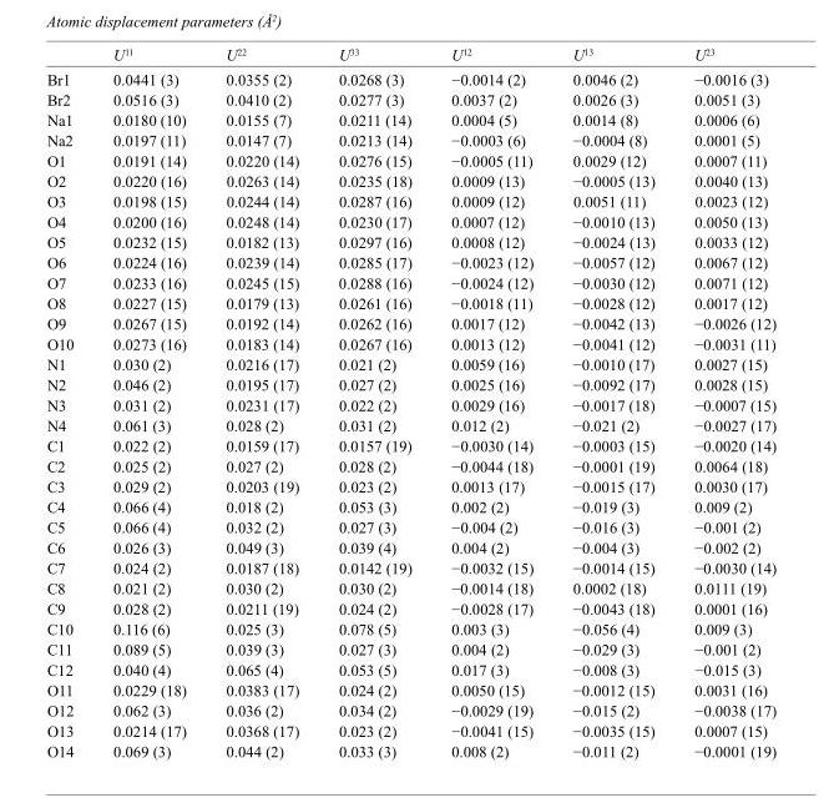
<table><thead><tr><td></td><td>U<sup>11</sup></td><td>U<sup>22</sup></td><td>U<sup>33</sup></td><td>U<sup>12</sup></td><td>U<sup>13</sup></td><td>U<sup>23</sup></td></tr></thead><tbody><tr><td>Br1</td><td>0.0441 (3)</td><td>0.0355 (2)</td><td>0.0268 (3)</td><td>−0.0014 (2)</td><td>0.0046 (2)</td><td>−0.0016 (3)</td></tr><tr><td>Br2</td><td>0.0516 (3)</td><td>0.0410 (2)</td><td>0.0277 (3)</td><td>0.0037 (2)</td><td>0.0026 (3)</td><td>0.0051 (3)</td></tr><tr><td>Na1</td><td>0.0180 (10)</td><td>0.0155 (7)</td><td>0.0211 (14)</td><td>0.0004 (5)</td><td>0.0014 (8)</td><td>0.0006 (6)</td></tr><tr><td>Na2</td><td>0.0197 (11)</td><td>0.0147 (7)</td><td>0.0213 (14)</td><td>−0.0003 (6)</td><td>−0.0004 (8)</td><td>0.0001 (5)</td></tr><tr><td>O1</td><td>0.0191 (14)</td><td>0.0220 (14)</td><td>0.0276 (15)</td><td>−0.0005 (11)</td><td>0.0029 (12)</td><td>0.0007 (11)</td></tr><tr><td>O2</td><td>0.0220 (16)</td><td>0.0263 (14)</td><td>0.0235 (18)</td><td>0.0009 (13)</td><td>−0.0005 (13)</td><td>0.0040 (13)</td></tr><tr><td>O3</td><td>0.0198 (15)</td><td>0.0244 (14)</td><td>0.0287 (16)</td><td>0.0009 (12)</td><td>0.0051 (11)</td><td>0.0023 (12)</td></tr><tr><td>O4</td><td>0.0200 (16)</td><td>0.0248 (14)</td><td>0.0230 (17)</td><td>0.0007 (12)</td><td>−0.0010 (13)</td><td>0.0050 (13)</td></tr><tr><td>O5</td><td>0.0232 (15)</td><td>0.0182 (13)</td><td>0.0297 (16)</td><td>0.0008 (12)</td><td>−0.0024 (13)</td><td>0.0033 (12)</td></tr><tr><td>O6</td><td>0.0224 (16)</td><td>0.0239 (14)</td><td>0.0285 (17)</td><td>−0.0023 (12)</td><td>−0.0057 (12)</td><td>0.0067 (12)</td></tr><tr><td>O7</td><td>0.0233 (16)</td><td>0.0245 (15)</td><td>0.0288 (16)</td><td>−0.0024 (12)</td><td>−0.0030 (12)</td><td>0.0071 (12)</td></tr><tr><td>O8</td><td>0.0227 (15)</td><td>0.0179 (13)</td><td>0.0261 (16)</td><td>−0.0018 (11)</td><td>−0.0028 (12)</td><td>0.0017 (12)</td></tr><tr><td>O9</td><td>0.0267 (15)</td><td>0.0192 (14)</td><td>0.0262 (16)</td><td>0.0017 (12)</td><td>−0.0042 (13)</td><td>−0.0026 (12)</td></tr><tr><td>O10</td><td>0.0273 (16)</td><td>0.0183 (14)</td><td>0.0267 (16)</td><td>0.0013 (12)</td><td>−0.0041 (12)</td><td>−0.0031 (11)</td></tr><tr><td>N1</td><td>0.030 (2)</td><td>0.0216 (17)</td><td>0.021 (2)</td><td>0.0059 (16)</td><td>−0.0010 (17)</td><td>0.0027 (15)</td></tr><tr><td>N2</td><td>0.046 (2)</td><td>0.0195 (17)</td><td>0.027 (2)</td><td>0.0025 (16)</td><td>−0.0092 (17)</td><td>0.0028 (15)</td></tr><tr><td>N3</td><td>0.031 (2)</td><td>0.0231 (17)</td><td>0.022 (2)</td><td>0.0029 (16)</td><td>−0.0017 (18)</td><td>−0.0007 (15)</td></tr><tr><td>N4</td><td>0.061 (3)</td><td>0.028 (2)</td><td>0.031 (2)</td><td>0.012 (2)</td><td>−0.021 (2)</td><td>−0.0027 (17)</td></tr><tr><td>C1</td><td>0.022 (2)</td><td>0.0159 (17)</td><td>0.0157 (19)</td><td>−0.0030 (14)</td><td>−0.0003 (15)</td><td>−0.0020 (14)</td></tr><tr><td>C2</td><td>0.025 (2)</td><td>0.027 (2)</td><td>0.028 (2)</td><td>−0.0044 (18)</td><td>−0.0001 (19)</td><td>0.0064 (18)</td></tr><tr><td>C3</td><td>0.029 (2)</td><td>0.0203 (19)</td><td>0.023 (2)</td><td>0.0013 (17)</td><td>−0.0015 (17)</td><td>0.0030 (17)</td></tr><tr><td>C4</td><td>0.066 (4)</td><td>0.018 (2)</td><td>0.053 (3)</td><td>0.002 (2)</td><td>−0.019 (3)</td><td>0.009 (2)</td></tr><tr><td>C5</td><td>0.066 (4)</td><td>0.032 (2)</td><td>0.027 (3)</td><td>−0.004 (2)</td><td>−0.016 (3)</td><td>−0.001 (2)</td></tr><tr><td>C6</td><td>0.026 (3)</td><td>0.049 (3)</td><td>0.039 (4)</td><td>0.004 (2)</td><td>−0.004 (3)</td><td>−0.002 (2)</td></tr><tr><td>C7</td><td>0.024 (2)</td><td>0.0187 (18)</td><td>0.0142 (19)</td><td>−0.0032 (15)</td><td>−0.0014 (15)</td><td>−0.0030 (14)</td></tr><tr><td>C8</td><td>0.021 (2)</td><td>0.030 (2)</td><td>0.030 (2)</td><td>−0.0014 (18)</td><td>0.0002 (18)</td><td>0.0111 (19)</td></tr><tr><td>C9</td><td>0.028 (2)</td><td>0.0211 (19)</td><td>0.024 (2)</td><td>−0.0028 (17)</td><td>−0.0043 (18)</td><td>0.0001 (16)</td></tr><tr><td>C10</td><td>0.116 (6)</td><td>0.025 (3)</td><td>0.078 (5)</td><td>0.003 (3)</td><td>−0.056 (4)</td><td>0.009 (3)</td></tr><tr><td>C11</td><td>0.089 (5)</td><td>0.039 (3)</td><td>0.027 (3)</td><td>0.004 (2)</td><td>−0.029 (3)</td><td>−0.001 (2)</td></tr><tr><td>C12</td><td>0.040 (4)</td><td>0.065 (4)</td><td>0.053 (5)</td><td>0.017 (3)</td><td>−0.008 (3)</td><td>−0.015 (3)</td></tr><tr><td>O11</td><td>0.0229 (18)</td><td>0.0383 (17)</td><td>0.024 (2)</td><td>0.0050 (15)</td><td>−0.0012 (15)</td><td>0.0031 (16)</td></tr><tr><td>O12</td><td>0.062 (3)</td><td>0.036 (2)</td><td>0.034 (2)</td><td>−0.0029 (19)</td><td>−0.015 (2)</td><td>−0.0038 (17)</td></tr><tr><td>O13</td><td>0.0214 (17)</td><td>0.0368 (17)</td><td>0.023 (2)</td><td>−0.0041 (15)</td><td>−0.0035 (15)</td><td>0.0007 (15)</td></tr><tr><td>O14</td><td>0.069 (3)</td><td>0.044 (2)</td><td>0.033 (3)</td><td>0.008 (2)</td><td>−0.011 (2)</td><td>−0.0001 (19)</td></tr></tbody></table>